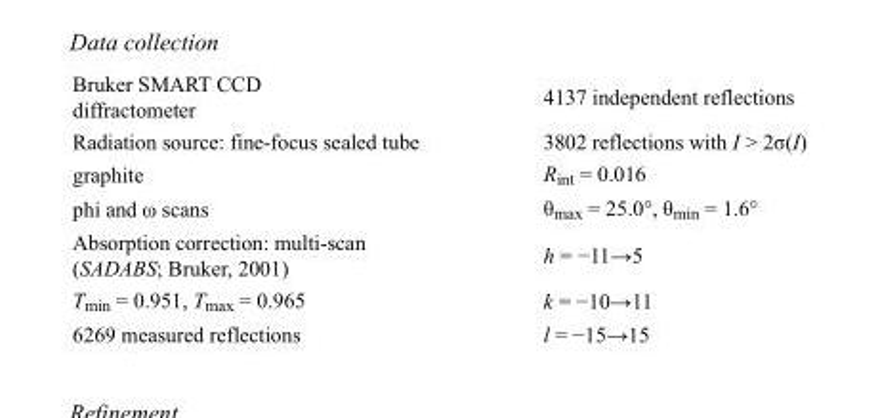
<table><tbody><tr><td>Bruker SMART CCD diffractometer</td><td>4137 independent reflections</td></tr><tr><td>Radiation source: fine-focus sealed tube</td><td>3802 reflections with I &gt; 2σ(I)</td></tr><tr><td>graphite</td><td>R<sub>int</sub> = 0.016</td></tr><tr><td>phi and ω scans</td><td>θ<sub>max</sub> = 25.0°, θ<sub>min</sub> = 1.6°</td></tr><tr><td>Absorption correction: multi-scan (SADABS; Bruker, 2001)</td><td>h = −11→5</td></tr><tr><td>T<sub>min</sub> = 0.951, T<sub>max</sub> = 0.965</td><td>k = −10→11</td></tr><tr><td>6269 measured reflections</td><td>l = −15→15</td></tr></tbody></table>